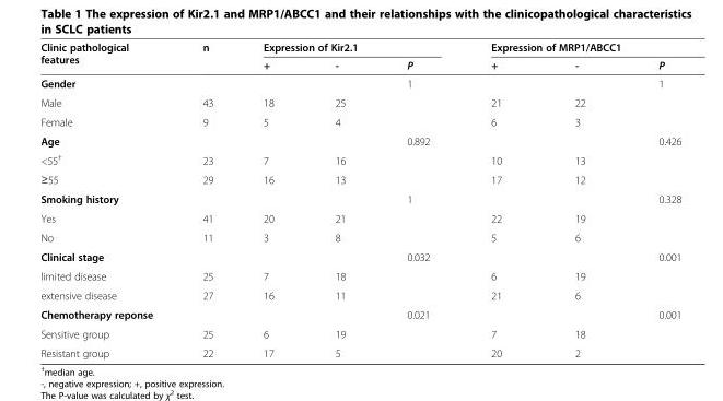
<table><thead><tr><td rowspan="2">Clinic pathological features</td><td rowspan="2">n</td><td colspan="3">Expression of Kir2.1</td><td colspan="3">Expression of MRP1/ABCC1</td></tr><tr><td>+</td><td>-</td><td>P</td><td>+</td><td>-</td><td>P</td></tr></thead><tbody><tr><td>Gender</td><td></td><td></td><td></td><td>1</td><td></td><td></td><td>1</td></tr><tr><td>Male</td><td>43</td><td>18</td><td>25</td><td></td><td>21</td><td>22</td><td></td></tr><tr><td>Female</td><td>9</td><td>5</td><td>4</td><td></td><td>6</td><td>3</td><td></td></tr><tr><td>Age</td><td></td><td></td><td></td><td>0.892</td><td></td><td></td><td>0.426</td></tr><tr><td>&lt;55<sup>†</sup></td><td>23</td><td>7</td><td>16</td><td></td><td>10</td><td>13</td><td></td></tr><tr><td>≥55</td><td>29</td><td>16</td><td>13</td><td></td><td>17</td><td>12</td><td></td></tr><tr><td>Smoking history</td><td></td><td></td><td></td><td>1</td><td></td><td></td><td>0.328</td></tr><tr><td>Yes</td><td>41</td><td>20</td><td>21</td><td></td><td>22</td><td>19</td><td></td></tr><tr><td>No</td><td>11</td><td>3</td><td>8</td><td></td><td>5</td><td>6</td><td></td></tr><tr><td>Clinical stage</td><td></td><td></td><td></td><td>0.032</td><td></td><td></td><td>0.001</td></tr><tr><td>limited disease</td><td>25</td><td>7</td><td>18</td><td></td><td>6</td><td>19</td><td></td></tr><tr><td>extensive disease</td><td>27</td><td>16</td><td>11</td><td></td><td>21</td><td>6</td><td></td></tr><tr><td>Chemotherapy reponse</td><td></td><td></td><td></td><td>0.021</td><td></td><td></td><td>0.001</td></tr><tr><td>Sensitive group</td><td>25</td><td>6</td><td>19</td><td></td><td>7</td><td>18</td><td></td></tr><tr><td>Resistant group</td><td>22</td><td>17</td><td>5</td><td></td><td>20</td><td>2</td><td></td></tr></tbody></table>